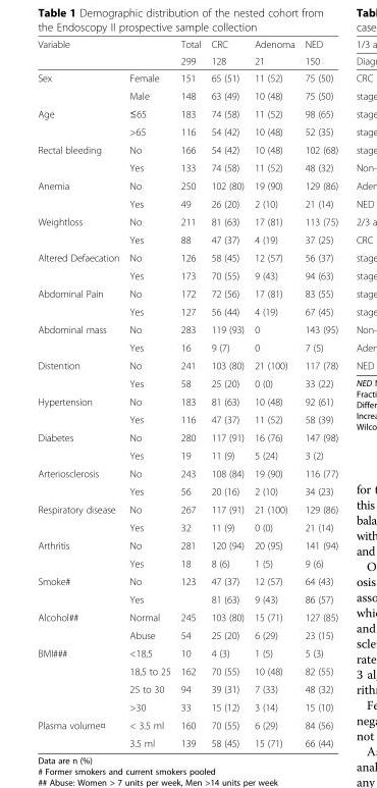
<table><thead><tr><td rowspan="2">Variable</td><td rowspan="2"></td><td rowspan="2">Total 299</td><td rowspan="2">CRC 128</td><td rowspan="2">Adenoma 21</td><td rowspan="2">NED 150</td></tr><tr></tr></thead><tbody><tr><td rowspan="2">Sex</td><td>Female</td><td>151</td><td>65 (51)</td><td>11 (52)</td><td>75 (50)</td></tr><tr><td>Male</td><td>148</td><td>63 (49)</td><td>10 (48)</td><td>75 (50)</td></tr><tr><td rowspan="2">Age</td><td>≤65</td><td>183</td><td>74 (58)</td><td>11 (52)</td><td>98 (65)</td></tr><tr><td>&gt;65</td><td>116</td><td>54 (42)</td><td>10 (48)</td><td>52 (35)</td></tr><tr><td rowspan="2">Rectal bleeding</td><td>No</td><td>166</td><td>54 (42)</td><td>10 (48)</td><td>102 (68)</td></tr><tr><td>Yes</td><td>133</td><td>74 (58)</td><td>11 (52)</td><td>48 (32)</td></tr><tr><td rowspan="2">Anemia</td><td>No</td><td>250</td><td>102 (80)</td><td>19 (90)</td><td>129 (86)</td></tr><tr><td>Yes</td><td>49</td><td>26 (20)</td><td>2 (10)</td><td>21 (14)</td></tr><tr><td rowspan="2">Weightloss</td><td>No</td><td>211</td><td>81 (63)</td><td>17 (81)</td><td>113 (75)</td></tr><tr><td>Yes</td><td>88</td><td>47 (37)</td><td>4 (19)</td><td>37 (25)</td></tr><tr><td rowspan="2">Altered Defaecation</td><td>No</td><td>126</td><td>58 (45)</td><td>12 (57)</td><td>56 (37)</td></tr><tr><td>Yes</td><td>173</td><td>70 (55)</td><td>9 (43)</td><td>94 (63)</td></tr><tr><td rowspan="2">Abdominal Pain</td><td>No</td><td>172</td><td>72 (56)</td><td>17 (81)</td><td>83 (55)</td></tr><tr><td>Yes</td><td>127</td><td>56 (44)</td><td>4 (19)</td><td>67 (45)</td></tr><tr><td rowspan="2">Abdominal mass</td><td>No</td><td>283</td><td>119 (93)</td><td>0</td><td>143 (95)</td></tr><tr><td>Yes</td><td>16</td><td>9 (7)</td><td>0</td><td>7 (5)</td></tr><tr><td rowspan="2">Distention</td><td>No</td><td>241</td><td>103 (80)</td><td>21 (100)</td><td>117 (78)</td></tr><tr><td>Yes</td><td>58</td><td>25 (20)</td><td>0 (0)</td><td>33 (22)</td></tr><tr><td rowspan="2">Hypertension</td><td>No</td><td>183</td><td>81 (63)</td><td>10 (48)</td><td>92 (61)</td></tr><tr><td>Yes</td><td>116</td><td>47 (37)</td><td>11 (52)</td><td>58 (39)</td></tr><tr><td rowspan="2">Diabetes</td><td>No</td><td>280</td><td>117 (91)</td><td>16 (76)</td><td>147 (98)</td></tr><tr><td>Yes</td><td>19</td><td>11 (9)</td><td>5 (24)</td><td>3 (2)</td></tr><tr><td rowspan="2">Arteriosclerosis</td><td>No</td><td>243</td><td>108 (84)</td><td>19 (90)</td><td>116 (77)</td></tr><tr><td>Yes</td><td>56</td><td>20 (16)</td><td>2 (10)</td><td>34 (23)</td></tr><tr><td rowspan="2">Respiratory disease</td><td>No</td><td>267</td><td>117 (91)</td><td>21 (100)</td><td>129 (86)</td></tr><tr><td>Yes</td><td>32</td><td>11 (9)</td><td>0 (0)</td><td>21 (14)</td></tr><tr><td rowspan="2">Arthritis</td><td>No</td><td>281</td><td>120 (94)</td><td>20 (95)</td><td>141 (94)</td></tr><tr><td>Yes</td><td>18</td><td>8 (6)</td><td>1 (5)</td><td>9 (6)</td></tr><tr><td rowspan="2">Smoke#</td><td>No</td><td>123</td><td>47 (37)</td><td>12 (57)</td><td>64 (43)</td></tr><tr><td>Yes</td><td></td><td>81 (63)</td><td>9 (43)</td><td>86 (57)</td></tr><tr><td rowspan="2">Alcohol##</td><td>Normal</td><td>245</td><td>103 (80)</td><td>15 (71)</td><td>127 (85)</td></tr><tr><td>Abuse</td><td>54</td><td>25 (20)</td><td>6 (29)</td><td>23 (15)</td></tr><tr><td rowspan="4">BMI###</td><td>&lt;18,5</td><td>10</td><td>4 (3)</td><td>1 (5)</td><td>5 (3)</td></tr><tr><td>18,5 to 25</td><td>162</td><td>70 (55)</td><td>10 (48)</td><td>82 (55)</td></tr><tr><td>25 to 30</td><td>94</td><td>39 (31)</td><td>7 (33)</td><td>48 (32)</td></tr><tr><td>&gt;30</td><td>33</td><td>15 (12)</td><td>3 (14)</td><td>15 (10)</td></tr><tr><td rowspan="2">Plasma volume¤</td><td>&lt; 3.5 ml</td><td>160</td><td>70 (55)</td><td>6 (29)</td><td>84 (56)</td></tr><tr><td>3.5 ml</td><td>139</td><td>58 (45)</td><td>15 (71)</td><td>66 (44)</td></tr></tbody></table>